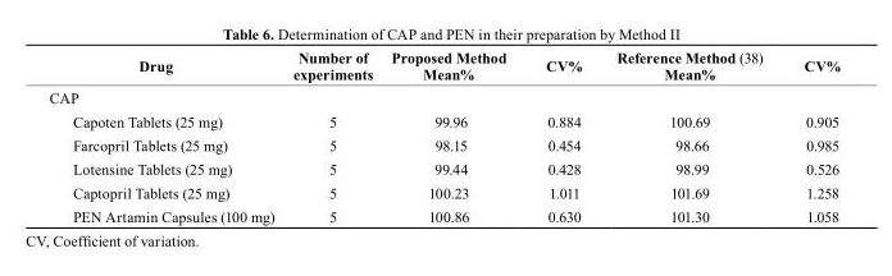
<table><thead><tr><td>Drug</td><td>Number of experiments</td><td>Proposed Method Mean%</td><td>cv%</td><td>reference Method (38) Mean%</td><td>cv%</td></tr></thead><tbody><tr><td colspan="6">CAP</td></tr><tr><td>Capoten Tablets (25 mg)</td><td>5</td><td>99.96</td><td>0.884</td><td>100.69</td><td>0.905</td></tr><tr><td>Farcopril Tablets (25 mg)</td><td>5</td><td>98.15</td><td>0.454</td><td>98.66</td><td>0.985</td></tr><tr><td>Lotensine Tablets (25 mg)</td><td>5</td><td>99.44</td><td>0.428</td><td>98.99</td><td>0.526</td></tr><tr><td>Captopril Tablets (25 mg)</td><td>5</td><td>100.23</td><td>1.011</td><td>101.69</td><td>1.258</td></tr><tr><td>PEN Artamin Capsules (100 mg)</td><td>5</td><td>100.86</td><td>0.630</td><td>101.30</td><td>1.058</td></tr></tbody></table>